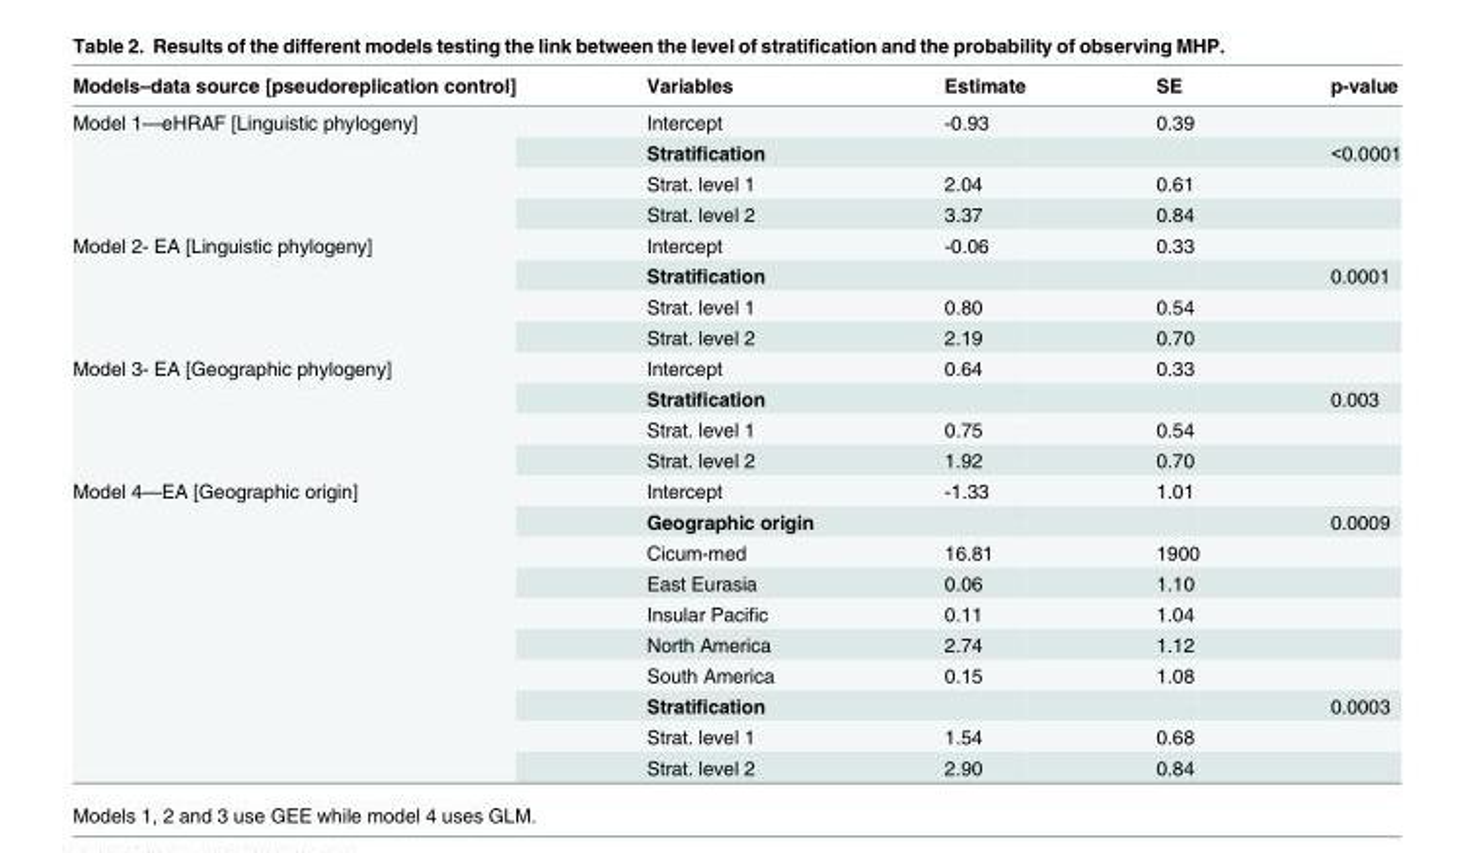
<table><thead><tr><td>Models–data source [pseudoreplication control]</td><td>Variables</td><td>Estimate</td><td>SE</td><td>p-value</td></tr></thead><tbody><tr><td rowspan="4">Model 1—eHRAF [Linguistic phylogeny]</td><td>Intercept</td><td>-0.93</td><td>0.39</td><td></td></tr><tr><td>Stratification</td><td></td><td></td><td>&lt;0.0001</td></tr><tr><td>Strat. level 1</td><td>2.04</td><td>0.61</td><td></td></tr><tr><td>Strat. level 2</td><td>3.37</td><td>0.84</td><td></td></tr><tr><td rowspan="4">Model 2- EA [Linguistic phylogeny]</td><td>Intercept</td><td>-0.06</td><td>0.33</td><td></td></tr><tr><td>Stratification</td><td></td><td></td><td>0.0001</td></tr><tr><td>Strat. level 1</td><td>0.80</td><td>0.54</td><td></td></tr><tr><td>Strat. level 2</td><td>2.19</td><td>0.70</td><td></td></tr><tr><td rowspan="4">Model 3- EA [Geographic phylogeny]</td><td>Intercept</td><td>0.64</td><td>0.33</td><td></td></tr><tr><td>Stratification</td><td></td><td></td><td>0.003</td></tr><tr><td>Strat. level 1</td><td>0.75</td><td>0.54</td><td></td></tr><tr><td>Strat. level 2</td><td>1.92</td><td>0.70</td><td></td></tr><tr><td rowspan="10">Model 4—EA [Geographic origin]</td><td>Intercept</td><td>-1.33</td><td>1.01</td><td></td></tr><tr><td>Geographic origin</td><td></td><td></td><td>0.0009</td></tr><tr><td>Cicum-med</td><td>16.81</td><td>1900</td><td></td></tr><tr><td>East Eurasia</td><td>0.06</td><td>1.10</td><td></td></tr><tr><td>Insular Pacific</td><td>0.11</td><td>1.04</td><td></td></tr><tr><td>North America</td><td>2.74</td><td>1.12</td><td></td></tr><tr><td>South America</td><td>0.15</td><td>1.08</td><td></td></tr><tr><td>Stratification</td><td></td><td></td><td>0.0003</td></tr><tr><td>Strat. level 1</td><td>1.54</td><td>0.68</td><td></td></tr><tr><td>Strat. level 2</td><td>2.90</td><td>0.84</td><td></td></tr></tbody></table>